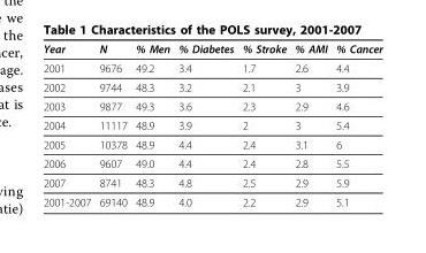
<table><thead><tr><td>Year</td><td>N</td><td>% Men</td><td>% Diabetes</td><td>% Stroke</td><td>% AMI</td><td>% Cancer</td></tr></thead><tbody><tr><td>2001</td><td>9676</td><td>49.2</td><td>3.4</td><td>1.7</td><td>2.6</td><td>4.4</td></tr><tr><td>2002</td><td>9744</td><td>48.3</td><td>3.2</td><td>2.1</td><td>3</td><td>3.9</td></tr><tr><td>2003</td><td>9877</td><td>49.3</td><td>3.6</td><td>2.3</td><td>2.9</td><td>4.6</td></tr><tr><td>2004</td><td>11117</td><td>48.9</td><td>3.9</td><td>2</td><td>3</td><td>5.4</td></tr><tr><td>2005</td><td>10378</td><td>48.9</td><td>4.4</td><td>2.4</td><td>3.1</td><td>6</td></tr><tr><td>2006</td><td>9607</td><td>49.0</td><td>4.4</td><td>2.4</td><td>2.8</td><td>5.5</td></tr><tr><td>2007</td><td>8741</td><td>48.3</td><td>4.8</td><td>2.5</td><td>2.9</td><td>5.9</td></tr><tr><td>2001-2007</td><td>69140</td><td>48.9</td><td>4.0</td><td>2.2</td><td>2.9</td><td>5.1</td></tr></tbody></table>